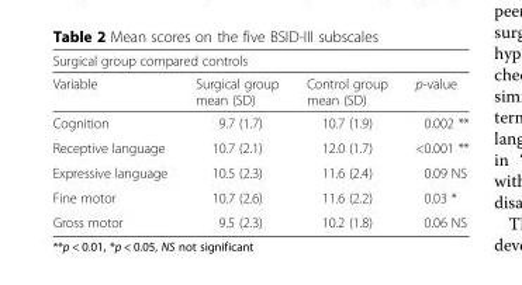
<table><thead><tr><td colspan="4">Surgical group compared controls</td></tr><tr><td>Variable</td><td>Surgical group mean (SD)</td><td>Control group mean (SD)</td><td>p-value</td></tr></thead><tbody><tr><td>Cognition</td><td>9.7 (1.7)</td><td>10.7 (1.9)</td><td>0.002 **</td></tr><tr><td>Receptive language</td><td>10.7 (2.1)</td><td>12.0 (1.7)</td><td>&lt;0.001 **</td></tr><tr><td>Expressive language</td><td>10.5 (2.3)</td><td>11.6 (2.4)</td><td>0.09 NS</td></tr><tr><td>Fine motor</td><td>10.7 (2.6)</td><td>11.6 (2.2)</td><td>0.03 *</td></tr><tr><td>Gross motor</td><td>9.5 (2.3)</td><td>10.2 (1.8)</td><td>0.06 NS</td></tr></tbody></table>